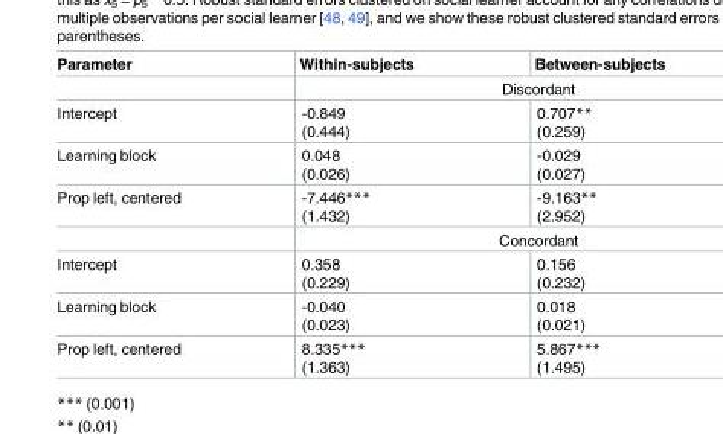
<table><thead><tr><td>Parameter</td><td>Within-subjects</td><td>Between-subjects</td></tr></thead><tbody><tr><td></td><td colspan="2">Discordant</td></tr><tr><td>Intercept</td><td>-0.849 (0.444)</td><td>0.707** (0.259)</td></tr><tr><td>Learning block</td><td>0.048 (0.026)</td><td>-0.029 (0.027)</td></tr><tr><td rowspan="2">Prop left, centered</td><td>-7.446*** (1.432)</td><td>-9.163** (2.952)</td></tr><tr><td colspan="2">Concordant</td></tr><tr><td>Intercept</td><td>0.358 (0.229)</td><td>0.156 (0.232)</td></tr><tr><td>Learning block</td><td>-0.040 (0.023)</td><td>0.018 (0.021)</td></tr><tr><td>Prop left, centered</td><td>8.335*** (1.363)</td><td>5.867*** (1.495)</td></tr></tbody></table>